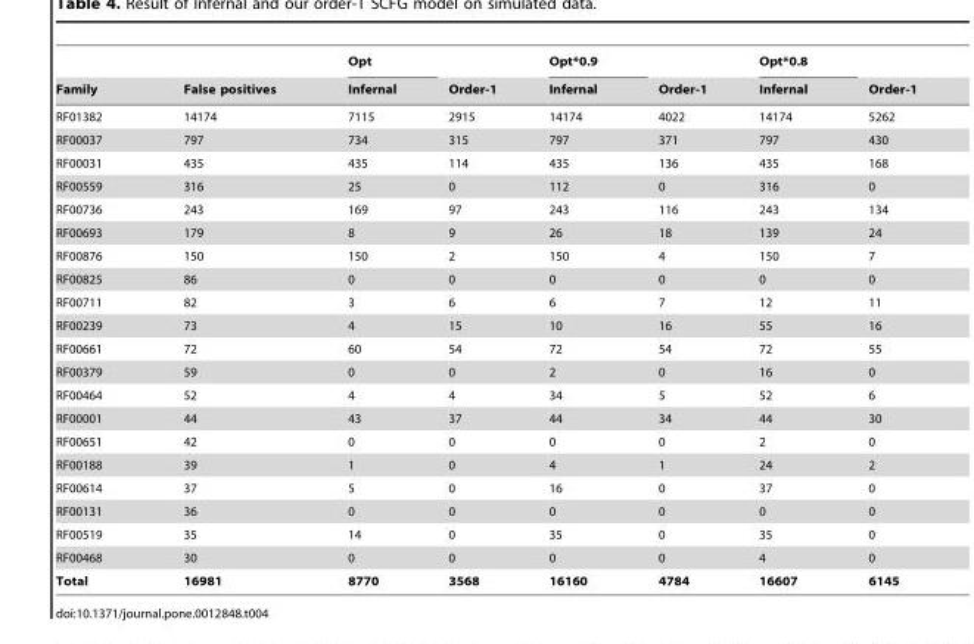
<table><thead><tr><td rowspan="2">Family</td><td rowspan="2">False positives</td><td rowspan="2">Opt Infernal</td><td rowspan="2">Order-1</td><td rowspan="2">Opt*0.9 Infernal</td><td rowspan="2">Order-1</td><td rowspan="2">Opt*0.8 Infernal</td><td rowspan="2">Order-1</td></tr><tr></tr></thead><tbody><tr><td>RF01382</td><td>14174</td><td>7115</td><td>2915</td><td>14174</td><td>4022</td><td>14174</td><td>5262</td></tr><tr><td>RF00037</td><td>797</td><td>734</td><td>315</td><td>797</td><td>371</td><td>797</td><td>430</td></tr><tr><td>RF00031</td><td>435</td><td>435</td><td>114</td><td>435</td><td>136</td><td>435</td><td>168</td></tr><tr><td>RF00559</td><td>316</td><td>25</td><td>0</td><td>112</td><td>0</td><td>316</td><td>0</td></tr><tr><td>RF00736</td><td>243</td><td>169</td><td>97</td><td>243</td><td>116</td><td>243</td><td>134</td></tr><tr><td>RF00693</td><td>179</td><td>8</td><td>9</td><td>26</td><td>18</td><td>139</td><td>24</td></tr><tr><td>RF00876</td><td>150</td><td>150</td><td>2</td><td>150</td><td>4</td><td>150</td><td>7</td></tr><tr><td>RF00825</td><td>86</td><td>0</td><td>0</td><td>0</td><td>0</td><td>0</td><td>0</td></tr><tr><td>RF00711</td><td>82</td><td>3</td><td>6</td><td>6</td><td>7</td><td>12</td><td>11</td></tr><tr><td>RF00239</td><td>73</td><td>4</td><td>15</td><td>10</td><td>16</td><td>55</td><td>16</td></tr><tr><td>RF00661</td><td>72</td><td>60</td><td>54</td><td>72</td><td>54</td><td>72</td><td>55</td></tr><tr><td>RF00379</td><td>59</td><td>0</td><td>0</td><td>2</td><td>0</td><td>16</td><td>0</td></tr><tr><td>RF00464</td><td>52</td><td>4</td><td>4</td><td>34</td><td>5</td><td>52</td><td>6</td></tr><tr><td>RF00001</td><td>44</td><td>43</td><td>37</td><td>44</td><td>34</td><td>44</td><td>30</td></tr><tr><td>RF00651</td><td>42</td><td>0</td><td>0</td><td>0</td><td>0</td><td>2</td><td>0</td></tr><tr><td>RF00188</td><td>39</td><td>1</td><td>0</td><td>4</td><td>1</td><td>24</td><td>2</td></tr><tr><td>RF00614</td><td>37</td><td>5</td><td>0</td><td>16</td><td>0</td><td>37</td><td>0</td></tr><tr><td>RF00131</td><td>36</td><td>0</td><td>0</td><td>0</td><td>0</td><td>0</td><td>0</td></tr><tr><td>RF00519</td><td>35</td><td>14</td><td>0</td><td>35</td><td>0</td><td>35</td><td>0</td></tr><tr><td>RF00468</td><td>30</td><td>0</td><td>0</td><td>0</td><td>0</td><td>4</td><td>0</td></tr><tr><td>Total</td><td>16981</td><td>8770</td><td>3568</td><td>16160</td><td>4784</td><td>16607</td><td>6145</td></tr></tbody></table>